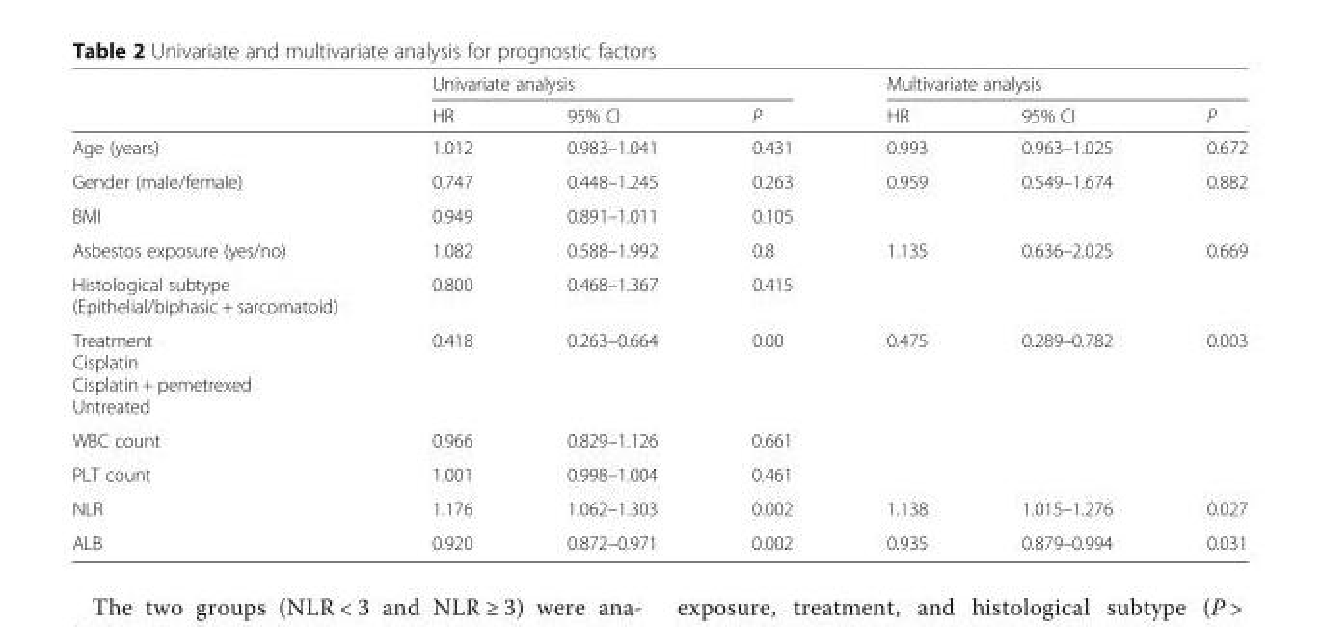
<table><thead><tr><td rowspan="2"></td><td colspan="3">Univariate analysis</td><td colspan="3">Multivariate analysis</td></tr><tr><td>HR</td><td>95% CI</td><td>P</td><td>HR</td><td>95% CI</td><td>P</td></tr></thead><tbody><tr><td>Age (years)</td><td>1.012</td><td>0.983–1.041</td><td>0.431</td><td>0.993</td><td>0.963–1.025</td><td>0.672</td></tr><tr><td>Gender (male/female)</td><td>0.747</td><td>0.448–1.245</td><td>0.263</td><td>0.959</td><td>0.549–1.674</td><td>0.882</td></tr><tr><td>BMI</td><td>0.949</td><td>0.891–1.011</td><td>0.105</td><td></td><td></td><td></td></tr><tr><td>Asbestos exposure (yes/no)</td><td>1.082</td><td>0.588–1.992</td><td>0.8</td><td>1.135</td><td>0.636–2.025</td><td>0.669</td></tr><tr><td>Histological subtype (Epithelial/biphasic + sarcomatoid)</td><td>0.800</td><td>0.468–1.367</td><td>0.415</td><td></td><td></td><td></td></tr><tr><td>Treatment Cisplatin Cisplatin + pemetrexed Untreated</td><td>0.418</td><td>0.263–0.664</td><td>0.00</td><td>0.475</td><td>0.289–0.782</td><td>0.003</td></tr><tr><td>WBC count</td><td>0.966</td><td>0.829–1.126</td><td>0.661</td><td></td><td></td><td></td></tr><tr><td>PLT count</td><td>1.001</td><td>0.998–1.004</td><td>0.461</td><td></td><td></td><td></td></tr><tr><td>NLR</td><td>1.176</td><td>1.062–1.303</td><td>0.002</td><td>1.138</td><td>1.015–1.276</td><td>0.027</td></tr><tr><td>ALB</td><td>0.920</td><td>0.872–0.971</td><td>0.002</td><td>0.935</td><td>0.879–0.994</td><td>0.031</td></tr></tbody></table>